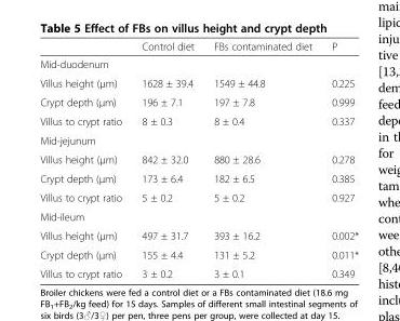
<table><thead><tr><td></td><td>Control diet</td><td>FBs contaminated diet</td><td>P</td></tr></thead><tbody><tr><td colspan="4">Mid-duodenum</td></tr><tr><td>Villus height (μm)</td><td>1628 ± 39.4</td><td>1549 ± 44.8</td><td>0.225</td></tr><tr><td>Crypt depth (μm)</td><td>196 ± 7.1</td><td>197 ± 7.8</td><td>0.999</td></tr><tr><td>Villus to crypt ratio</td><td>8 ± 0.3</td><td>8 ± 0.4</td><td>0.337</td></tr><tr><td colspan="4">Mid-jejunum</td></tr><tr><td>Villus height (μm)</td><td>842 ± 32.0</td><td>880 ± 28.6</td><td>0.278</td></tr><tr><td>Crypt depth (μm)</td><td>173 ± 6.4</td><td>182 ± 6.5</td><td>0.385</td></tr><tr><td>Villus to crypt ratio</td><td>5 ± 0.2</td><td>5 ± 0.2</td><td>0.927</td></tr><tr><td colspan="4">Mid-ileum</td></tr><tr><td>Villus height (μm)</td><td>497 ± 31.7</td><td>393 ± 16.2</td><td>0.002*</td></tr><tr><td>Crypt depth (μm)</td><td>155 ± 4.4</td><td>131 ± 5.2</td><td>0.011*</td></tr><tr><td>Villus to crypt ratio</td><td>3 ± 0.2</td><td>3 ± 0.1</td><td>0.349</td></tr></tbody></table>